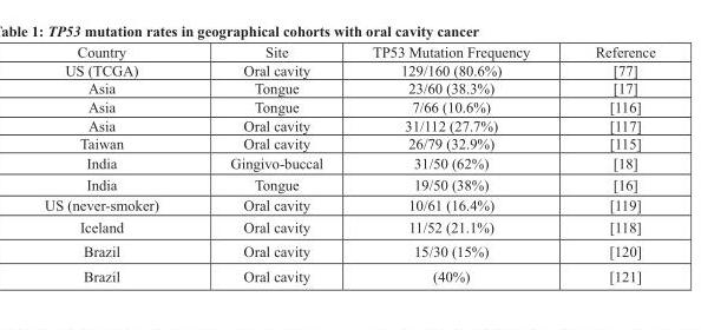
<table><thead><tr><td>Country</td><td>Site</td><td>TP53 Mutation Frequency</td><td>Reference</td></tr></thead><tbody><tr><td>US (TCGA)</td><td>Oral cavity</td><td>129/160 (80.6%)</td><td>[77]</td></tr><tr><td>Asia</td><td>Tongue</td><td>23/60 (38.3%)</td><td>[17]</td></tr><tr><td>Asia</td><td>Tongue</td><td>7/66 (10.6%)</td><td>[116]</td></tr><tr><td>Asia</td><td>Oral cavity</td><td>31/112 (27.7%)</td><td>[117]</td></tr><tr><td>Taiwan</td><td>Oral cavity</td><td>26/79 (32.9%)</td><td>[115]</td></tr><tr><td>India</td><td>Gingivo-buccal</td><td>31/50 (62%)</td><td>[18]</td></tr><tr><td>India</td><td>Tongue</td><td>19/50 (38%)</td><td>[16]</td></tr><tr><td>US (never-smoker)</td><td>Oral cavity</td><td>10/61 (16.4%)</td><td>[119]</td></tr><tr><td>Iceland</td><td>Oral cavity</td><td>11/52 (21.1%)</td><td>[118]</td></tr><tr><td>Brazil</td><td>Oral cavity</td><td>15/30 (15%)</td><td>[120]</td></tr><tr><td>Brazil</td><td>Oral cavity</td><td>(40%)</td><td>[121]</td></tr></tbody></table>